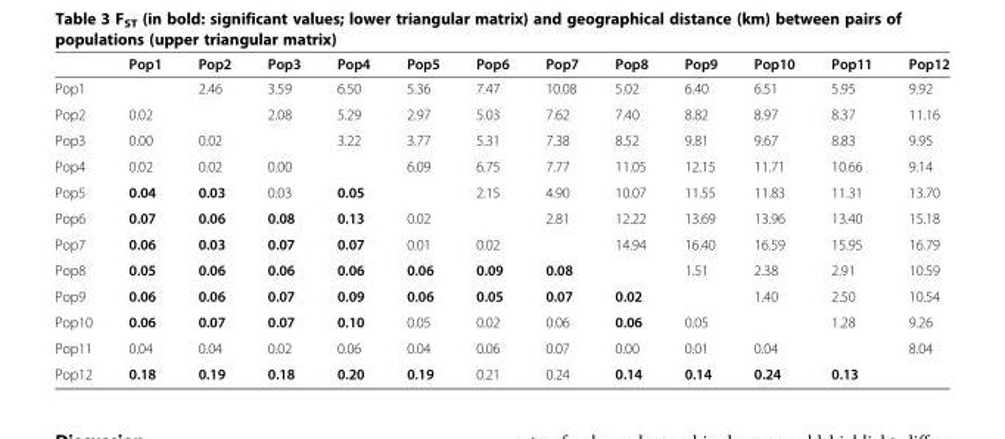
<table><thead><tr><td></td><td>Pop1</td><td>Pop2</td><td>Pop3</td><td>Pop4</td><td>Pop5</td><td>Pop6</td><td>Pop7</td><td>Pop8</td><td>Pop9</td><td>Pop10</td><td>Pop11</td><td>Pop12</td></tr></thead><tbody><tr><td>Pop1</td><td></td><td>2.46</td><td>3.59</td><td>6.50</td><td>5.36</td><td>7.47</td><td>10.08</td><td>5.02</td><td>6.40</td><td>6.51</td><td>5.95</td><td>9.92</td></tr><tr><td>Pop2</td><td>0.02</td><td></td><td>2.08</td><td>5.29</td><td>2.97</td><td>5.03</td><td>7.62</td><td>7.40</td><td>8.82</td><td>8.97</td><td>8.37</td><td>11.16</td></tr><tr><td>Pop3</td><td>0.00</td><td>0.02</td><td></td><td>3.22</td><td>3.77</td><td>5.31</td><td>7.38</td><td>8.52</td><td>9.81</td><td>9.67</td><td>8.83</td><td>9.95</td></tr><tr><td>Pop4</td><td>0.02</td><td>0.02</td><td>0.00</td><td></td><td>6.09</td><td>6.75</td><td>7.77</td><td>11.05</td><td>12.15</td><td>11.71</td><td>10.66</td><td>9.14</td></tr><tr><td>Pop5</td><td>0.04</td><td>0.03</td><td>0.03</td><td>0.05</td><td></td><td>2.15</td><td>4.90</td><td>10.07</td><td>11.55</td><td>11.83</td><td>11.31</td><td>13.70</td></tr><tr><td>Pop6</td><td>0.07</td><td>0.06</td><td>0.08</td><td>0.13</td><td>0.02</td><td></td><td>2.81</td><td>12.22</td><td>13.69</td><td>13.96</td><td>13.40</td><td>15.18</td></tr><tr><td>Pop7</td><td>0.06</td><td>0.03</td><td>0.07</td><td>0.07</td><td>0.01</td><td>0.02</td><td></td><td>14.94</td><td>16.40</td><td>16.59</td><td>15.95</td><td>16.79</td></tr><tr><td>Pop8</td><td>0.05</td><td>0.06</td><td>0.06</td><td>0.06</td><td>0.06</td><td>0.09</td><td>0.08</td><td></td><td>1.51</td><td>2.38</td><td>2.91</td><td>10.59</td></tr><tr><td>Pop9</td><td>0.06</td><td>0.06</td><td>0.07</td><td>0.09</td><td>0.06</td><td>0.05</td><td>0.07</td><td>0.02</td><td></td><td>1.40</td><td>2.50</td><td>10.54</td></tr><tr><td>Pop10</td><td>0.06</td><td>0.07</td><td>0.07</td><td>0.10</td><td>0.05</td><td>0.02</td><td>0.06</td><td>0.06</td><td>0.05</td><td></td><td>1.28</td><td>9.26</td></tr><tr><td>Pop11</td><td>0.04</td><td>0.04</td><td>0.02</td><td>0.06</td><td>0.04</td><td>0.06</td><td>0.07</td><td>0.00</td><td>0.01</td><td>0.04</td><td></td><td>8.04</td></tr><tr><td>Pop12</td><td>0.18</td><td>0.19</td><td>0.18</td><td>0.20</td><td>0.19</td><td>0.21</td><td>0.24</td><td>0.14</td><td>0.14</td><td>0.24</td><td>0.13</td><td></td></tr></tbody></table>